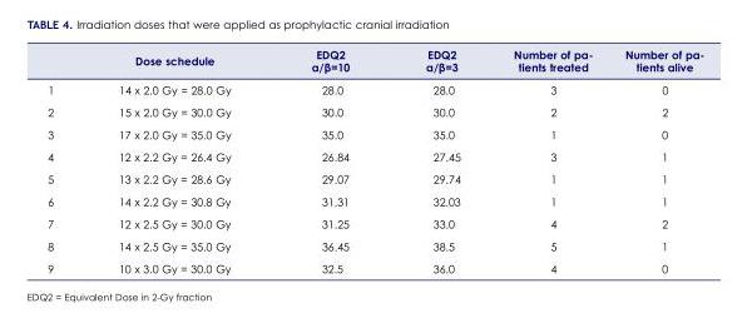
<table><thead><tr><td></td><td>Dose schedule</td><td>EDQ2 α/β=10</td><td>EDQ2 α/β=3</td><td>Number of pa- tients treated</td><td>Number of pa- tients alive</td></tr></thead><tbody><tr><td>1</td><td>14 x 2.0 Gy = 28.0 Gy</td><td>28.0</td><td>28.0</td><td>3</td><td>0</td></tr><tr><td>2</td><td>15 x 2.0 Gy = 30.0 Gy</td><td>30.0</td><td>30.0</td><td>2</td><td>2</td></tr><tr><td>3</td><td>17 x 2.0 Gy = 35.0 Gy</td><td>35.0</td><td>35.0</td><td>1</td><td>0</td></tr><tr><td>4</td><td>12 x 2.2 Gy = 26.4 Gy</td><td>26.84</td><td>27.45</td><td>3</td><td>1</td></tr><tr><td>5</td><td>13 x 2.2 Gy = 28.6 Gy</td><td>29.07</td><td>29.74</td><td>1</td><td>1</td></tr><tr><td>6</td><td>14 x 2.2 Gy = 30.8 Gy</td><td>31.31</td><td>32.03</td><td>1</td><td>1</td></tr><tr><td>7</td><td>12 x 2.5 Gy = 30.0 Gy</td><td>31.25</td><td>33.0</td><td>4</td><td>2</td></tr><tr><td>8</td><td>14 x 2.5 Gy = 35.0 Gy</td><td>36.45</td><td>38.5</td><td>5</td><td>1</td></tr><tr><td>9</td><td>10 x 3.0 Gy = 30.0 Gy</td><td>32.5</td><td>36.0</td><td>4</td><td>0</td></tr></tbody></table>